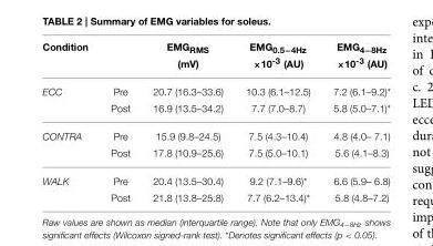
<table><thead><tr><td>Condition</td><td></td><td>EMG<sub>RMS</sub> (mV)</td><td>EMG<sub>0.5−4Hz</sub> ×10<sup>-3</sup> (AU)</td><td>EMG<sub>4−8Hz</sub> ×10<sup>-3</sup> (AU)</td></tr></thead><tbody><tr><td rowspan="2">ECC</td><td>Pre</td><td>20.7 (16.3–33.6)</td><td>10.3 (6.1–12.5)</td><td>7.2 (6.1–9.2)*</td></tr><tr><td>Post</td><td>16.9 (13.5–34.2)</td><td>7.7 (7.0–8.7)</td><td>5.8 (5.0–7.1)*</td></tr><tr><td rowspan="2">CONTRA</td><td>Pre</td><td>15.9 (9.8–24.5)</td><td>7.5 (4.3–10.4)</td><td>4.8 (4.0– 7.1)</td></tr><tr><td>Post</td><td>17.8 (10.9–25.6)</td><td>7.5 (5.0–10.1)</td><td>5.6 (4.1–8.3)</td></tr><tr><td rowspan="2">WALK</td><td>Pre</td><td>20.4 (13.5–30.4)</td><td>9.2 (7.1–9.6)*</td><td>6.6 (5.9– 6.8)</td></tr><tr><td>Post</td><td>21.8 (13.8–25.8)</td><td>7.7 (6.2–13.4)*</td><td>5.8 (4.8–7.2)</td></tr></tbody></table>